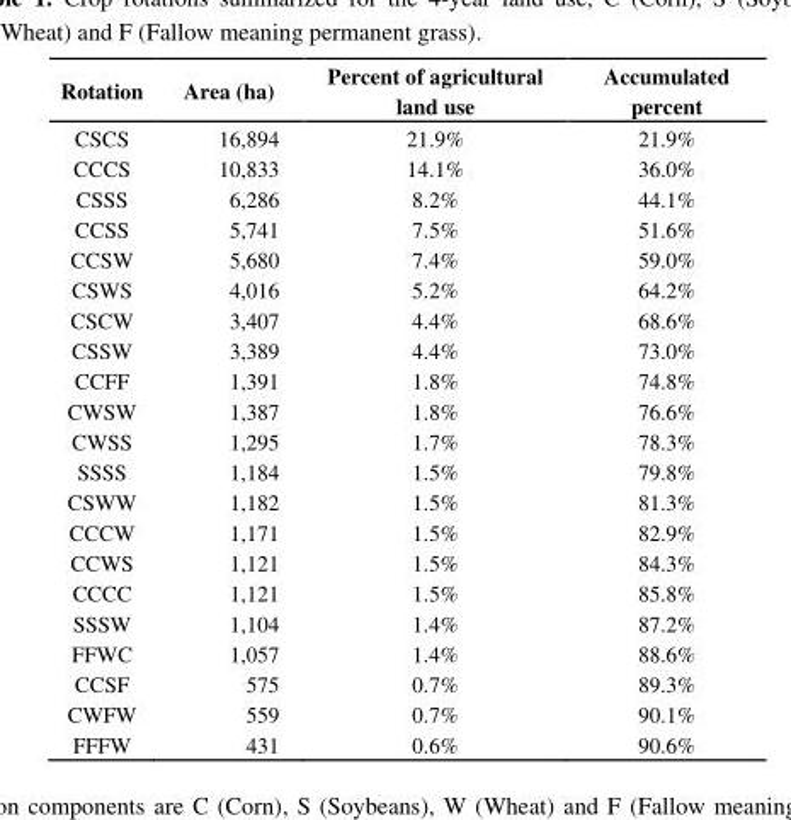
<table><thead><tr><td>Rotation</td><td>Area (ha)</td><td>Percent of agricultural land use</td><td>Accumulated percent</td></tr></thead><tbody><tr><td>CSCS</td><td>16,894</td><td>21.9%</td><td>21.9%</td></tr><tr><td>CCCS</td><td>10,833</td><td>14.1%</td><td>36.0%</td></tr><tr><td>CSSS</td><td>6,286</td><td>8.2%</td><td>44.1%</td></tr><tr><td>CCSS</td><td>5,741</td><td>7.5%</td><td>51.6%</td></tr><tr><td>CCSW</td><td>5,680</td><td>7.4%</td><td>59.0%</td></tr><tr><td>CSWS</td><td>4,016</td><td>5.2%</td><td>64.2%</td></tr><tr><td>CSCW</td><td>3,407</td><td>4.4%</td><td>68.6%</td></tr><tr><td>CSSW</td><td>3,389</td><td>4.4%</td><td>73.0%</td></tr><tr><td>CCFF</td><td>1,391</td><td>1.8%</td><td>74.8%</td></tr><tr><td>CWSW</td><td>1,387</td><td>1.8%</td><td>76.6%</td></tr><tr><td>CWSS</td><td>1,295</td><td>1.7%</td><td>78.3%</td></tr><tr><td>SSSS</td><td>1,184</td><td>1.5%</td><td>79.8%</td></tr><tr><td>CSWW</td><td>1,182</td><td>1.5%</td><td>81.3%</td></tr><tr><td>CCCW</td><td>1,171</td><td>1.5%</td><td>82.9%</td></tr><tr><td>CCWS</td><td>1,121</td><td>1.5%</td><td>84.3%</td></tr><tr><td>CCCC</td><td>1,121</td><td>1.5%</td><td>85.8%</td></tr><tr><td>SSSW</td><td>1,104</td><td>1.4%</td><td>87.2%</td></tr><tr><td>FFWC</td><td>1,057</td><td>1.4%</td><td>88.6%</td></tr><tr><td>CCSF</td><td>575</td><td>0.7%</td><td>89.3%</td></tr><tr><td>CWFW</td><td>559</td><td>0.7%</td><td>90.1%</td></tr><tr><td>FFFW</td><td>431</td><td>0.6%</td><td>90.6%</td></tr></tbody></table>